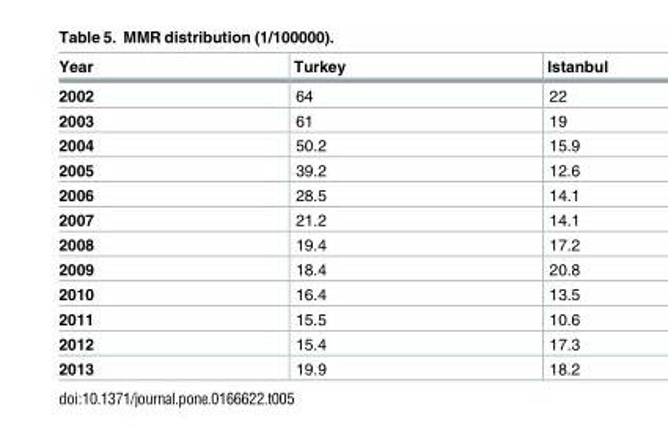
<table><thead><tr><td>Year</td><td>Turkey</td><td>Istanbul</td></tr></thead><tbody><tr><td>2002</td><td>64</td><td>22</td></tr><tr><td>2003</td><td>61</td><td>19</td></tr><tr><td>2004</td><td>50.2</td><td>15.9</td></tr><tr><td>2005</td><td>39.2</td><td>12.6</td></tr><tr><td>2006</td><td>28.5</td><td>14.1</td></tr><tr><td>2007</td><td>21.2</td><td>14.1</td></tr><tr><td>2008</td><td>19.4</td><td>17.2</td></tr><tr><td>2009</td><td>18.4</td><td>20.8</td></tr><tr><td>2010</td><td>16.4</td><td>13.5</td></tr><tr><td>2011</td><td>15.5</td><td>10.6</td></tr><tr><td>2012</td><td>15.4</td><td>17.3</td></tr><tr><td>2013</td><td>19.9</td><td>18.2</td></tr></tbody></table>